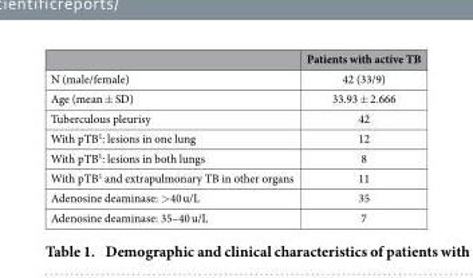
<table><thead><tr><td></td><td>Patients with active TB</td></tr></thead><tbody><tr><td>N (male/female)</td><td>42 (33/9)</td></tr><tr><td>Age (mean ± SD)</td><td>33.93 ± 2.666</td></tr><tr><td>Tuberculous pleurisy</td><td>42</td></tr><tr><td>With pTB<sup>1</sup>: lesions in one lung</td><td>12</td></tr><tr><td>With pTB<sup>1</sup>: lesions in both lungs</td><td>8</td></tr><tr><td>With pTB<sup>1</sup> and extrapulmonary TB in other organs</td><td>11</td></tr><tr><td>Adenosine deaminase: &gt; 40 u/L</td><td>35</td></tr><tr><td>Adenosine deaminase: 35–40 u/L</td><td>7</td></tr></tbody></table>